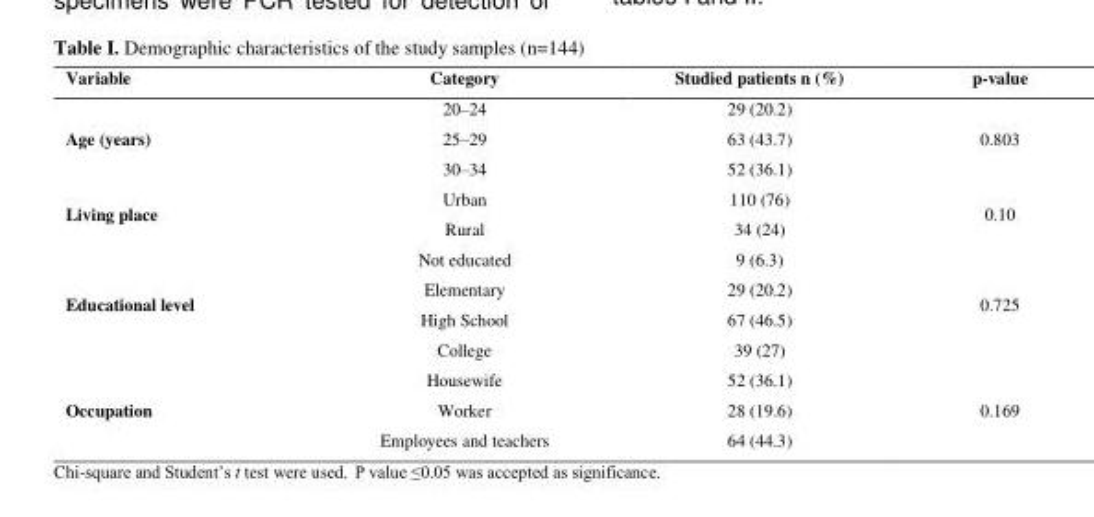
<table><thead><tr><td>Variable</td><td>Category</td><td>Studied patients n (%)</td><td>p-value</td></tr></thead><tbody><tr><td rowspan="3">Age (years)</td><td>20–24</td><td>29 (20.2)</td><td rowspan="3">0.803</td></tr><tr><td>25–29</td><td>63 (43.7)</td></tr><tr><td>30–34</td><td>52 (36.1)</td></tr><tr><td rowspan="2">Living place</td><td>Urban</td><td>110 (76)</td><td rowspan="2">0.10</td></tr><tr><td>Rural</td><td>34 (24)</td></tr><tr><td rowspan="4">Educational level</td><td>Not educated</td><td>9 (6.3)</td><td rowspan="4">0.725</td></tr><tr><td>Elementary</td><td>29 (20.2)</td></tr><tr><td>High School</td><td>67 (46.5)</td></tr><tr><td>College</td><td>39 (27)</td></tr><tr><td rowspan="3">Occupation</td><td>Housewife</td><td>52 (36.1)</td><td rowspan="3">0.169</td></tr><tr><td>Worker</td><td>28 (19.6)</td></tr><tr><td>Employees and teachers</td><td>64 (44.3)</td></tr></tbody></table>